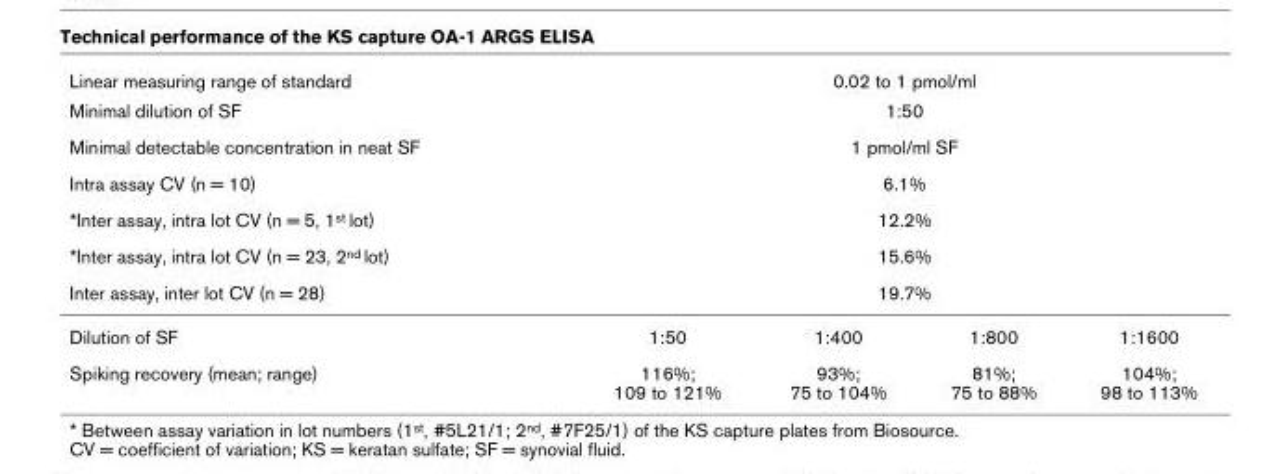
<table><thead><tr><td rowspan="8">Linear measuring range of standard Minimal dilution of SF Minimal detectable concentration in neat SF Intra assay CV (n = 10) *Inter assay, intra lot CV (n = 5, 1st lot) *Inter assay, intra lot CV (n = 23, 2nd lot) Inter assay, inter lot CV (n = 28) Dilution of SF</td><td rowspan="7" colspan="4">0.02 to 1 pmol/ml 1:50 1 pmol/ml SF 6.1% 12.2% 15.6% 19.7%</td></tr><tr></tr><tr></tr><tr></tr><tr></tr><tr></tr><tr></tr><tr><td>1:50</td><td>1:400</td><td>1:800</td><td>1:1600</td></tr></thead><tbody><tr><td>Spiking recovery (mean; range)</td><td>116%; 109 to 121%</td><td>93%; 75 to 104%</td><td>81%; 75 to 88%</td><td>104%; 98 to 113%</td></tr></tbody></table>